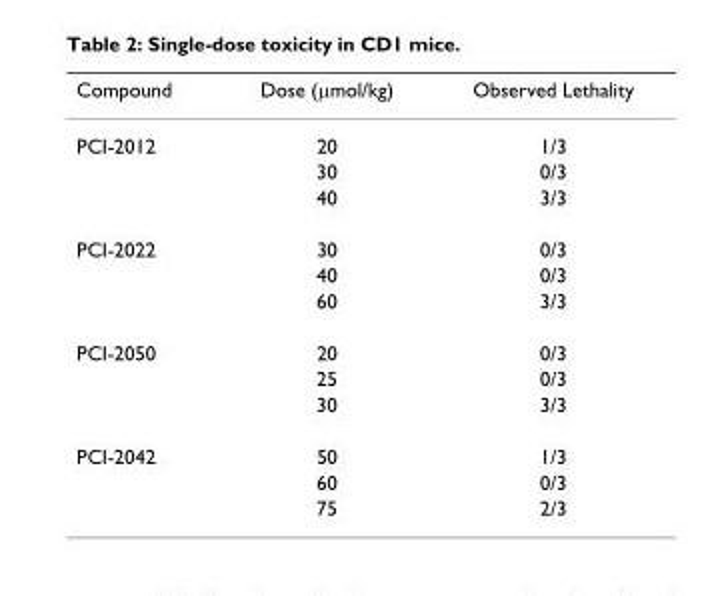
<table><thead><tr><td>Compound</td><td>Dose (µmol/kg)</td><td>Observed Lethality</td></tr></thead><tbody><tr><td rowspan="3">PCI-2012</td><td>20</td><td>1/3</td></tr><tr><td>30</td><td>0/3</td></tr><tr><td>40</td><td>3/3</td></tr><tr><td rowspan="3">PCI-2022</td><td>30</td><td>0/3</td></tr><tr><td>40</td><td>0/3</td></tr><tr><td>60</td><td>3/3</td></tr><tr><td rowspan="3">PCI-2050</td><td>20</td><td>0/3</td></tr><tr><td>25</td><td>0/3</td></tr><tr><td>30</td><td>3/3</td></tr><tr><td rowspan="3">PCI-2042</td><td>50</td><td>1/3</td></tr><tr><td>60</td><td>0/3</td></tr><tr><td>75</td><td>2/3</td></tr></tbody></table>